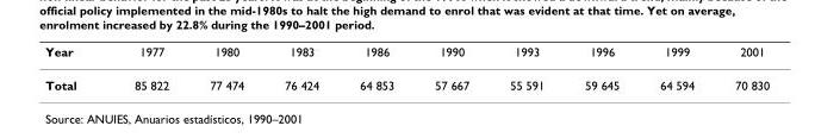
<table><thead><tr><td>Year</td><td>1977</td><td>1980</td><td>1983</td><td>1986</td><td>1990</td><td>1993</td><td>1996</td><td>1999</td><td>2001</td></tr></thead><tbody><tr><td>Total</td><td>85 822</td><td>77 474</td><td>76 424</td><td>64 853</td><td>57 667</td><td>55 591</td><td>59 645</td><td>64 594</td><td>70 830</td></tr></tbody></table>